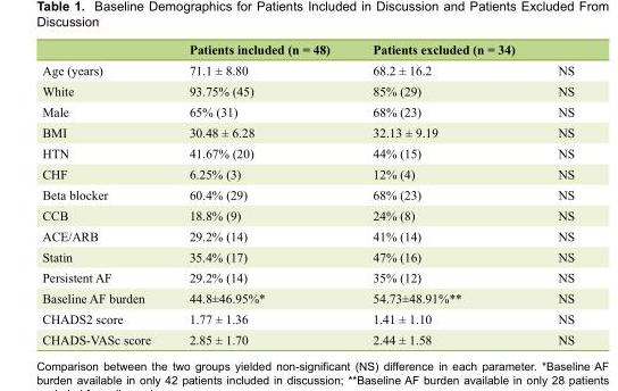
<table><thead><tr><td></td><td>Patients included (n = 48)</td><td>Patients excluded (n = 34)</td><td></td></tr></thead><tbody><tr><td>Age (years)</td><td>71.1 ± 8.80</td><td>68.2 ± 16.2</td><td>NS</td></tr><tr><td>White</td><td>93.75% (45)</td><td>85% (29)</td><td>NS</td></tr><tr><td>Male</td><td>65% (31)</td><td>68% (23)</td><td>NS</td></tr><tr><td>BMI</td><td>30.48 ± 6.28</td><td>32.13 ± 9.19</td><td>NS</td></tr><tr><td>HTN</td><td>41.67% (20)</td><td>44% (15)</td><td>NS</td></tr><tr><td>CHF</td><td>6.25% (3)</td><td>12% (4)</td><td>NS</td></tr><tr><td>Beta blocker</td><td>60.4% (29)</td><td>68% (23)</td><td>NS</td></tr><tr><td>CCB</td><td>18.8% (9)</td><td>24% (8)</td><td>NS</td></tr><tr><td>ACE/ARB</td><td>29.2% (14)</td><td>41% (14)</td><td>NS</td></tr><tr><td>Statin</td><td>35.4% (17)</td><td>47% (16)</td><td>NS</td></tr><tr><td>Persistent AF</td><td>29.2% (14)</td><td>35% (12)</td><td>NS</td></tr><tr><td>Baseline AF burden</td><td>44.8±46.95%*</td><td>54.73±48.91%**</td><td>NS</td></tr><tr><td>CHADS2 score</td><td>1.77 ± 1.36</td><td>1.41 ± 1.10</td><td>NS</td></tr><tr><td>CHADS-VASc score</td><td>2.85 ± 1.70</td><td>2.44 ± 1.58</td><td>NS</td></tr></tbody></table>